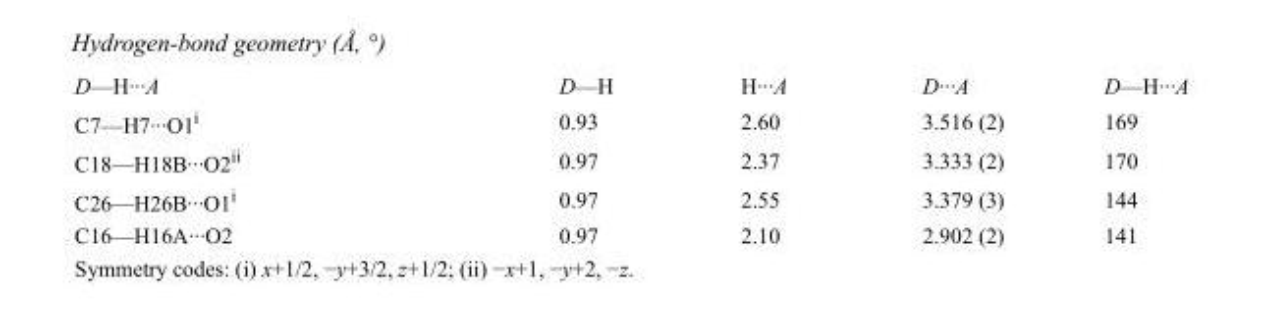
<table><tbody><tr><td>D—H···A</td><td>D—H</td><td>H···A</td><td>D···A</td><td>D—H···A</td></tr><tr><td>C7—H7···O1<sup>i</sup></td><td>0.93</td><td>2.60</td><td>3.516 (2)</td><td>169</td></tr><tr><td>C18—H18B···O2<sup>ii</sup></td><td>0.97</td><td>2.37</td><td>3.333 (2)</td><td>170</td></tr><tr><td>C26—H26B···O1<sup>i</sup></td><td>0.97</td><td>2.55</td><td>3.379 (3)</td><td>144</td></tr><tr><td>C16—H16A···O2</td><td>0.97</td><td>2.10</td><td>2.902 (2)</td><td>141</td></tr></tbody></table>